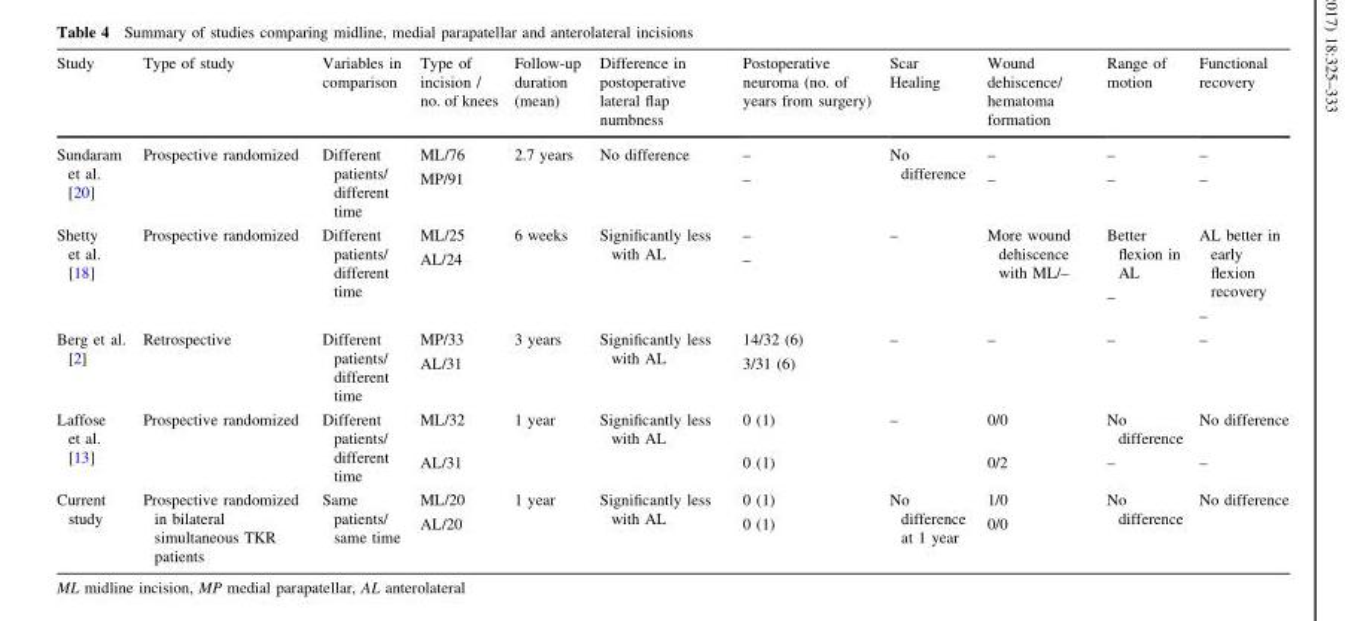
<table><thead><tr><td>Study</td><td>Type of study</td><td>Variables in comparison</td><td>Type of incision / no. of knees</td><td>Follow-up duration (mean)</td><td>Difference in postoperative lateral flap numbness</td><td>Postoperative neuroma (no. of years from surgery)</td><td>Scar Healing</td><td>Wound dehiscence/ hematoma formation</td><td>Range of motion</td><td>Functional recovery</td></tr></thead><tbody><tr><td rowspan="2">Sundaram et al. [20]</td><td rowspan="2">Prospective randomized</td><td rowspan="2">Different patients/ different time</td><td>ML/76</td><td rowspan="2">2.7 years</td><td rowspan="2">No difference</td><td>–</td><td rowspan="2">No difference</td><td>–</td><td>–</td><td>–</td></tr><tr><td>MP/91</td><td>–</td><td>–</td><td>–</td><td>–</td></tr><tr><td rowspan="2">Shetty et al. [18]</td><td rowspan="2">Prospective randomized</td><td rowspan="2">Different patients/ different time</td><td>ML/25</td><td rowspan="2">6 weeks</td><td rowspan="2">Significantly less with AL</td><td>–</td><td rowspan="2">–</td><td rowspan="2">More wound dehiscence with ML/–</td><td rowspan="2">Better flexion in AL –</td><td rowspan="2">AL better in early flexion recovery –</td></tr><tr><td>AL/24</td><td>–</td></tr><tr><td rowspan="2">Berg et al. [2]</td><td rowspan="2">Retrospective</td><td rowspan="2">Different patients/ different time</td><td>MP/33</td><td rowspan="2">3 years</td><td rowspan="2">Significantly less with AL</td><td>14/32 (6)</td><td rowspan="2">–</td><td rowspan="2">–</td><td rowspan="2">–</td><td rowspan="2">–</td></tr><tr><td>AL/31</td><td>3/31 (6)</td></tr><tr><td rowspan="2">Laffose et al. [13]</td><td rowspan="2">Prospective randomized</td><td rowspan="2">Different patients/ different time</td><td>ML/32</td><td rowspan="2">1 year</td><td rowspan="2">Significantly less with AL</td><td>0 (1)</td><td rowspan="2">–</td><td>0/0</td><td>No difference</td><td>No difference</td></tr><tr><td>AL/31</td><td>0 (1)</td><td>0/2</td><td>–</td><td>–</td></tr><tr><td rowspan="2">Current study</td><td rowspan="2">Prospective randomized in bilateral simultaneous TKR patients</td><td rowspan="2">Same patients/ same time</td><td>ML/20</td><td rowspan="2">1 year</td><td rowspan="2">Significantly less with AL</td><td>0 (1)</td><td rowspan="2">No difference at 1 year</td><td>1/0</td><td rowspan="2">No difference</td><td rowspan="2">No difference</td></tr><tr><td>AL/20</td><td>0 (1)</td><td>0/0</td></tr></tbody></table>